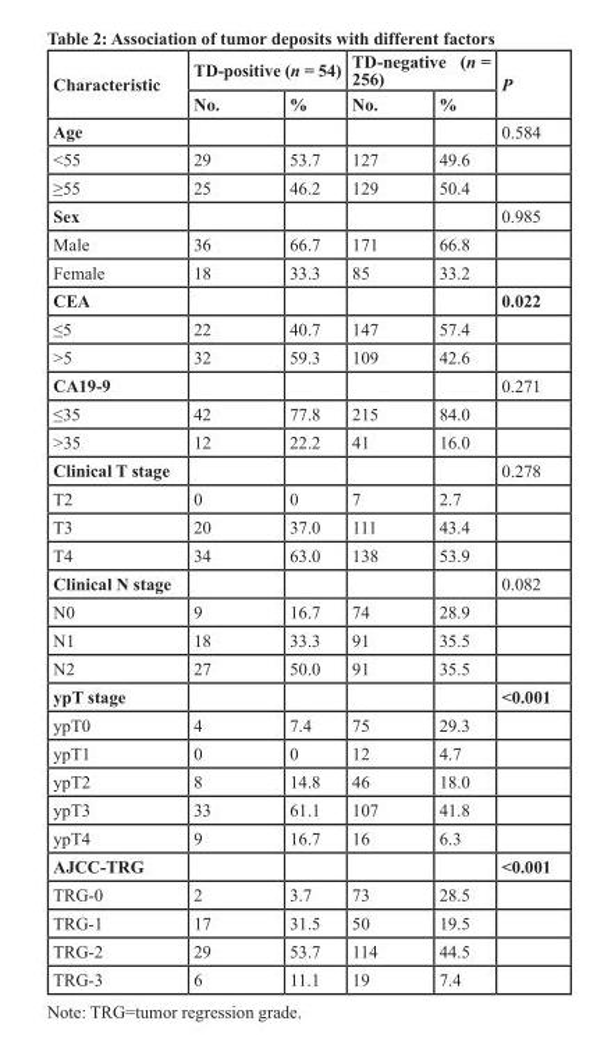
<table><thead><tr><td rowspan="2">Characteristic</td><td colspan="2">TD-positive (n = 54)</td><td colspan="2">TD-negative (n = 256)</td><td rowspan="2">P</td></tr><tr><td>No.</td><td>%</td><td>No.</td><td>%</td></tr></thead><tbody><tr><td>Age</td><td></td><td></td><td></td><td></td><td>0.584</td></tr><tr><td>&lt;55</td><td>29</td><td>53.7</td><td>127</td><td>49.6</td><td></td></tr><tr><td>≥55</td><td>25</td><td>46.2</td><td>129</td><td>50.4</td><td></td></tr><tr><td>Sex</td><td></td><td></td><td></td><td></td><td>0.985</td></tr><tr><td>Male</td><td>36</td><td>66.7</td><td>171</td><td>66.8</td><td></td></tr><tr><td>Female</td><td>18</td><td>33.3</td><td>85</td><td>33.2</td><td></td></tr><tr><td>CEA</td><td></td><td></td><td></td><td></td><td>0.022</td></tr><tr><td>≤5</td><td>22</td><td>40.7</td><td>147</td><td>57.4</td><td></td></tr><tr><td>&gt;5</td><td>32</td><td>59.3</td><td>109</td><td>42.6</td><td></td></tr><tr><td>CA19-9</td><td></td><td></td><td></td><td></td><td>0.271</td></tr><tr><td>≤35</td><td>42</td><td>77.8</td><td>215</td><td>84.0</td><td></td></tr><tr><td>&gt;35</td><td>12</td><td>22.2</td><td>41</td><td>16.0</td><td></td></tr><tr><td>Clinical T stage</td><td></td><td></td><td></td><td></td><td>0.278</td></tr><tr><td>T2</td><td>0</td><td>0</td><td>7</td><td>2.7</td><td></td></tr><tr><td>T3</td><td>20</td><td>37.0</td><td>111</td><td>43.4</td><td></td></tr><tr><td>T4</td><td>34</td><td>63.0</td><td>138</td><td>53.9</td><td></td></tr><tr><td>Clinical N stage</td><td></td><td></td><td></td><td></td><td>0.082</td></tr><tr><td>N0</td><td>9</td><td>16.7</td><td>74</td><td>28.9</td><td></td></tr><tr><td>N1</td><td>18</td><td>33.3</td><td>91</td><td>35.5</td><td></td></tr><tr><td>N2</td><td>27</td><td>50.0</td><td>91</td><td>35.5</td><td></td></tr><tr><td>ypT stage</td><td></td><td></td><td></td><td></td><td>&lt;0.001</td></tr><tr><td>ypT0</td><td>4</td><td>7.4</td><td>75</td><td>29.3</td><td></td></tr><tr><td>ypT1</td><td>0</td><td>0</td><td>12</td><td>4.7</td><td></td></tr><tr><td>ypT2</td><td>8</td><td>14.8</td><td>46</td><td>18.0</td><td></td></tr><tr><td>ypT3</td><td>33</td><td>61.1</td><td>107</td><td>41.8</td><td></td></tr><tr><td>ypT4</td><td>9</td><td>16.7</td><td>16</td><td>6.3</td><td></td></tr><tr><td>AJCC-TRG</td><td></td><td></td><td></td><td></td><td>&lt;0.001</td></tr><tr><td>TRG-0</td><td>2</td><td>3.7</td><td>73</td><td>28.5</td><td></td></tr><tr><td>TRG-1</td><td>17</td><td>31.5</td><td>50</td><td>19.5</td><td></td></tr><tr><td>TRG-2</td><td>29</td><td>53.7</td><td>114</td><td>44.5</td><td></td></tr><tr><td>TRG-3</td><td>6</td><td>11.1</td><td>19</td><td>7.4</td><td></td></tr></tbody></table>